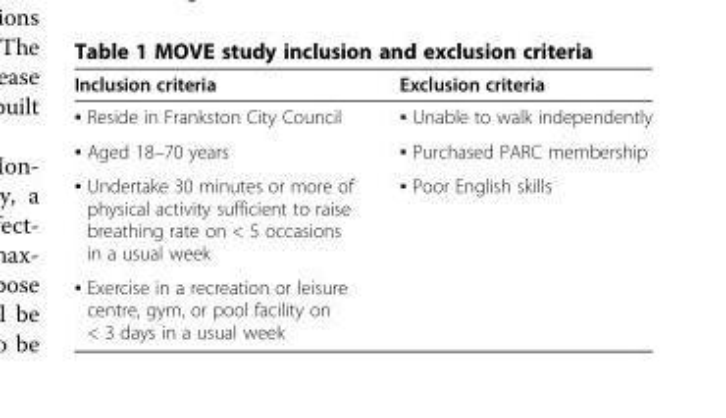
<table><thead><tr><td>Inclusion criteria</td><td>Exclusion criteria</td></tr></thead><tbody><tr><td>▪ Reside in Frankston City Council</td><td>▪ Unable to walk independently</td></tr><tr><td>▪ Aged 18–70 years</td><td>▪ Purchased PARC membership</td></tr><tr><td>▪ Undertake 30 minutes or more of physical activity sufficient to raise breathing rate on &lt; 5 occasions in a usual week</td><td rowspan="2">▪ Poor English skills</td></tr><tr><td>▪ Exercise in a recreation or leisure centre, gym, or pool facility on &lt; 3 days in a usual week</td></tr></tbody></table>